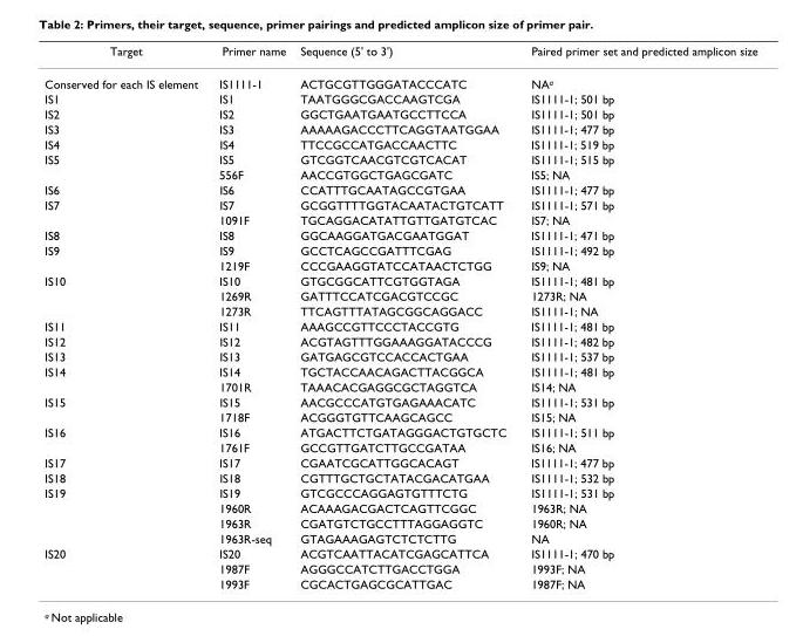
<table><thead><tr><td>Target</td><td>Primer name</td><td>Sequence (5&#x27; to 3&#x27;)</td><td>Paired primer set and predicted amplicon size</td></tr></thead><tbody><tr><td>Conserved for each IS element</td><td>IS1111-1</td><td>ACTGCGTTGGGATACCCATC</td><td>NA<sup>a</sup></td></tr><tr><td>IS1</td><td>IS1</td><td>TAATGGGCGACCAAGTCGA</td><td>IS1111-1; 501 bp</td></tr><tr><td>IS2</td><td>IS2</td><td>GGCTGAATGAATGCCTTCCA</td><td>IS1111-1; 501 bp</td></tr><tr><td>IS3</td><td>IS3</td><td>AAAAAGACCCTTCAGGTAATGGAA</td><td>IS1111-1; 477 bp</td></tr><tr><td>IS4</td><td>IS4</td><td>TTCCGCCATGACCAACTTC</td><td>IS1111-1; 519 bp</td></tr><tr><td rowspan="2">IS5</td><td>IS5</td><td>GTCGGTCAACGTCGTCACAT</td><td>IS1111-1; 515 bp</td></tr><tr><td>556F</td><td>AACCGTGGCTGAGCGATC</td><td>IS5; NA</td></tr><tr><td>IS6</td><td>IS6</td><td>CCATTTGCAATAGCCGTGAA</td><td>IS1111-1; 477 bp</td></tr><tr><td rowspan="2">IS7</td><td>IS7</td><td>GCGGTTTTGGTACAATACTGTCATT</td><td>IS1111-1; 571 bp</td></tr><tr><td>1091F</td><td>TGCAGGACATATTGTTGATGTCAC</td><td>IS7; NA</td></tr><tr><td>IS8</td><td>IS8</td><td>GGCAAGGATGACGAATGGAT</td><td>IS1111-1; 471 bp</td></tr><tr><td rowspan="2">IS9</td><td>IS9</td><td>GCCTCAGCCGATTTCGAG</td><td>IS1111-1; 492 bp</td></tr><tr><td>1219F</td><td>CCCGAAGGTATCCATAACTCTGG</td><td>IS9; NA</td></tr><tr><td rowspan="3">IS10</td><td>IS10</td><td>GTGCGGCATTCGTGGTAGA</td><td>IS1111-1; 481 bp</td></tr><tr><td>1269R</td><td>GATTTCCATCGACGTCCGC</td><td>1273R; NA</td></tr><tr><td>1273R</td><td>TTCAGTTTATAGCGGCAGGACC</td><td>IS1111-1; NA</td></tr><tr><td>IS11</td><td>IS11</td><td>AAAGCCGTTCCCTACCGTG</td><td>IS1111-1; 481 bp</td></tr><tr><td>IS12</td><td>IS12</td><td>ACGTAGTTTGGAAAGGATACCCG</td><td>IS1111-1; 482 bp</td></tr><tr><td>IS13</td><td>IS13</td><td>GATGAGCGTCCACCACTGAA</td><td>IS1111-1; 537 bp</td></tr><tr><td rowspan="2">IS14</td><td>IS14</td><td>TGCTACCAACAGACTTACGGCA</td><td>IS1111-1; 481 bp</td></tr><tr><td>1701R</td><td>TAAACACGAGGCGCTAGGTCA</td><td>IS14; NA</td></tr><tr><td rowspan="2">IS15</td><td>IS15</td><td>AACGCCCATGTGAGAAACATC</td><td>IS1111-1; 531 bp</td></tr><tr><td>1718F</td><td>ACGGGTGTTCAAGCAGCC</td><td>IS15; NA</td></tr><tr><td rowspan="2">IS16</td><td>IS16</td><td>ATGACTTCTGATAGGGACTGTGCTC</td><td>IS1111-1; 511 bp</td></tr><tr><td>1761F</td><td>GCCGTTGATCTTGCCGATAA</td><td>IS16; NA</td></tr><tr><td>IS17</td><td>IS17</td><td>CGAATCGCATTGGCACAGT</td><td>IS1111-1; 477 bp</td></tr><tr><td>IS18</td><td>IS18</td><td>CGTTTGCTGCTATACGACATGAA</td><td>IS1111-1; 532 bp</td></tr><tr><td rowspan="4">IS19</td><td>IS19</td><td>GTCGCCCAGGAGTGTTTCTG</td><td>IS1111-1; 531 bp</td></tr><tr><td>1960R</td><td>ACAAAGACGACTCAGTTCGGC</td><td>1963R; NA</td></tr><tr><td>1963R</td><td>CGATGTCTGCCTTTAGGAGGTC</td><td>1960R; NA</td></tr><tr><td>1963R-seq</td><td>GTAGAAAGAGTCTCTCTTG</td><td>NA</td></tr><tr><td rowspan="3">IS20</td><td>IS20</td><td>ACGTCAATTACATCGAGCATTCA</td><td>IS1111-1; 470 bp</td></tr><tr><td>1987F</td><td>AGGGCCATCTTGACCTGGA</td><td>1993F; NA</td></tr><tr><td>1993F</td><td>CGCACTGAGCGCATTGAC</td><td>1987F; NA</td></tr></tbody></table>